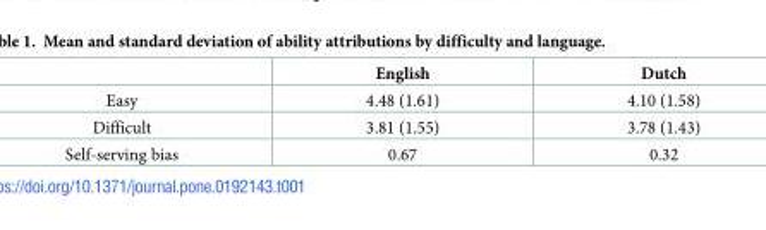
<table><thead><tr><td></td><td>English</td><td>Dutch</td></tr></thead><tbody><tr><td>Easy</td><td>4.48 (1.61)</td><td>4.10 (1.58)</td></tr><tr><td>Difficult</td><td>3.81 (1.55)</td><td>3.78 (1.43)</td></tr><tr><td>Self-serving bias</td><td>0.67</td><td>0.32</td></tr></tbody></table>